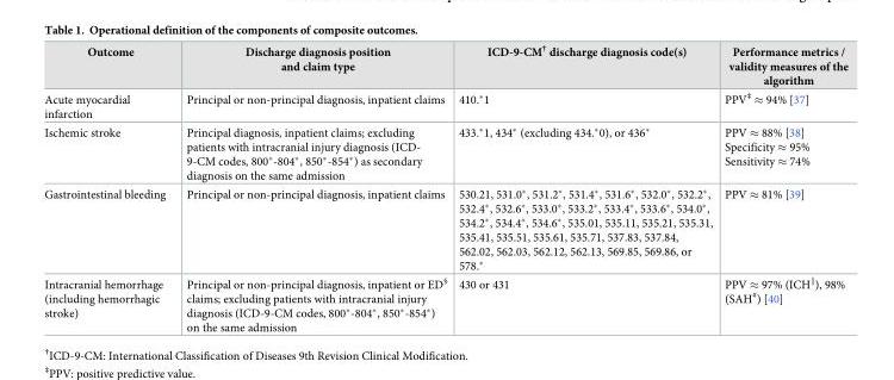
<table><thead><tr><td>Outcome</td><td>Discharge diagnosis position and claim type</td><td>ICD-9-CM<sup>†</sup> discharge diagnosis code(s)</td><td>Performance metrics / validity measures of the algorithm</td></tr></thead><tbody><tr><td>Acute myocardial infarction</td><td>Principal or non-principal diagnosis, inpatient claims</td><td>410.*1</td><td>PPV<sup>‡</sup> ≈ 94% [37]</td></tr><tr><td>Ischemic stroke</td><td>Principal diagnosis, inpatient claims; excluding patients with intracranial injury diagnosis (ICD- 9-CM codes, 800*-804*, 850*-854*) as secondary diagnosis on the same admission</td><td>433.*1, 434* (excluding 434.*0), or 436*</td><td>PPV ≈ 88% [38] Specificity ≈ 95% Sensitivity ≈ 74%</td></tr><tr><td>Gastrointestinal bleeding</td><td>Principal or non-principal diagnosis, inpatient claims</td><td>530.21, 531.0*, 531.2*, 531.4*, 531.6*, 532.0*, 532.2*, 532.4*, 532.6*, 533.0*, 533.2*, 533.4*, 533.6*, 534.0*, 534.2*, 534.4*, 534.6*, 535.01, 535.11, 535.21, 535.31, 535.41, 535.51, 535.61, 535.71, 537.83, 537.84, 562.02, 562.03, 562.12, 562.13, 569.85, 569.86, or 578.*</td><td>PPV ≈ 81% [39]</td></tr><tr><td>Intracranial hemorrhage (including hemorrhagic stroke)</td><td>Principal or non-principal diagnosis, inpatient or ED<sup>§</sup> claims; excluding patients with intracranial injury diagnosis (ICD-9-CM codes, 800*-804*, 850*-854*) on the same admission</td><td>430 or 431</td><td>PPV ≈ 97% (ICH<sup>‖</sup>), 98% (SAH<sup>#</sup>) [40]</td></tr></tbody></table>